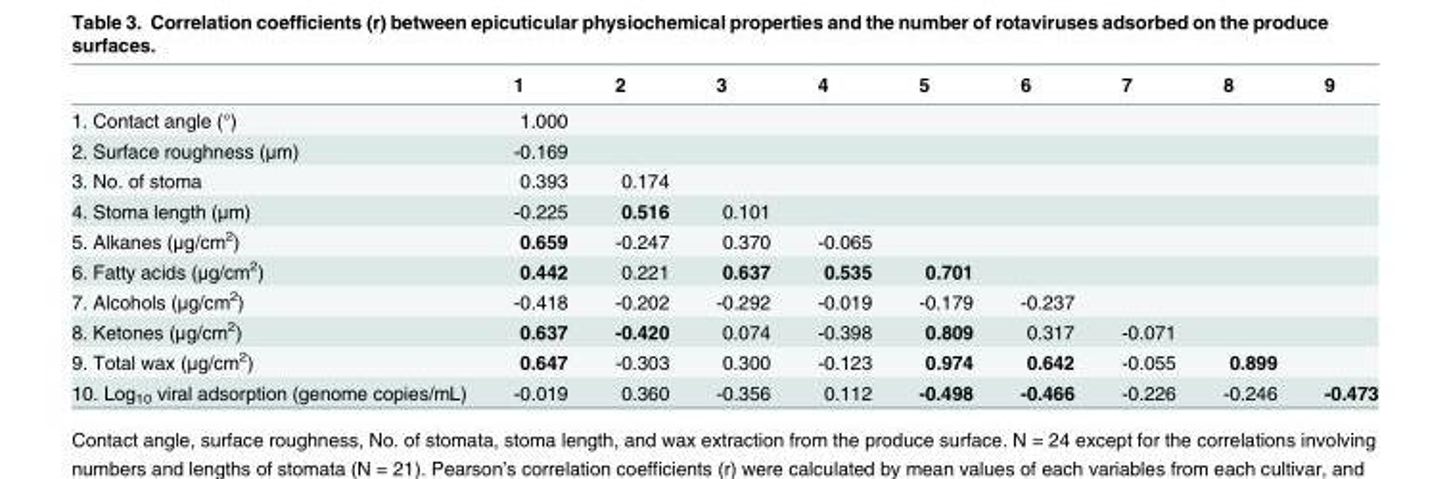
<table><thead><tr><td></td><td>1</td><td>2</td><td>3</td><td>4</td><td>5</td><td>6</td><td>7</td><td>8</td><td>9</td></tr></thead><tbody><tr><td>1. Contact angle (°)</td><td>1.000</td><td></td><td></td><td></td><td></td><td></td><td></td><td></td><td></td></tr><tr><td>2. Surface roughness (μm)</td><td>-0.169</td><td></td><td></td><td></td><td></td><td></td><td></td><td></td><td></td></tr><tr><td>3. No. of stoma</td><td>0.393</td><td>0.174</td><td></td><td></td><td></td><td></td><td></td><td></td><td></td></tr><tr><td>4. Stoma length (μm)</td><td>-0.225</td><td>0.516</td><td>0.101</td><td></td><td></td><td></td><td></td><td></td><td></td></tr><tr><td>5. Alkanes (μg/cm<sup>2</sup>)</td><td>0.659</td><td>-0.247</td><td>0.370</td><td>-0.065</td><td></td><td></td><td></td><td></td><td></td></tr><tr><td>6. Fatty acids (μg/cm<sup>2</sup>)</td><td>0.442</td><td>0.221</td><td>0.637</td><td>0.535</td><td>0.701</td><td></td><td></td><td></td><td></td></tr><tr><td>7. Alcohols (μg/cm<sup>2</sup>)</td><td>-0.418</td><td>-0.202</td><td>-0.292</td><td>-0.019</td><td>-0.179</td><td>-0.237</td><td></td><td></td><td></td></tr><tr><td>8. Ketones (μg/cm<sup>2</sup>)</td><td>0.637</td><td>-0.420</td><td>0.074</td><td>-0.398</td><td>0.809</td><td>0.317</td><td>-0.071</td><td></td><td></td></tr><tr><td>9. Total wax (μg/cm<sup>2</sup>)</td><td>0.647</td><td>-0.303</td><td>0.300</td><td>-0.123</td><td>0.974</td><td>0.642</td><td>-0.055</td><td>0.899</td><td></td></tr><tr><td>10. Log<sub>10</sub> viral adsorption (genome copies/mL)</td><td>-0.019</td><td>0.360</td><td>-0.356</td><td>0.112</td><td>-0.498</td><td>-0.466</td><td>-0.226</td><td>-0.246</td><td>-0.473</td></tr></tbody></table>